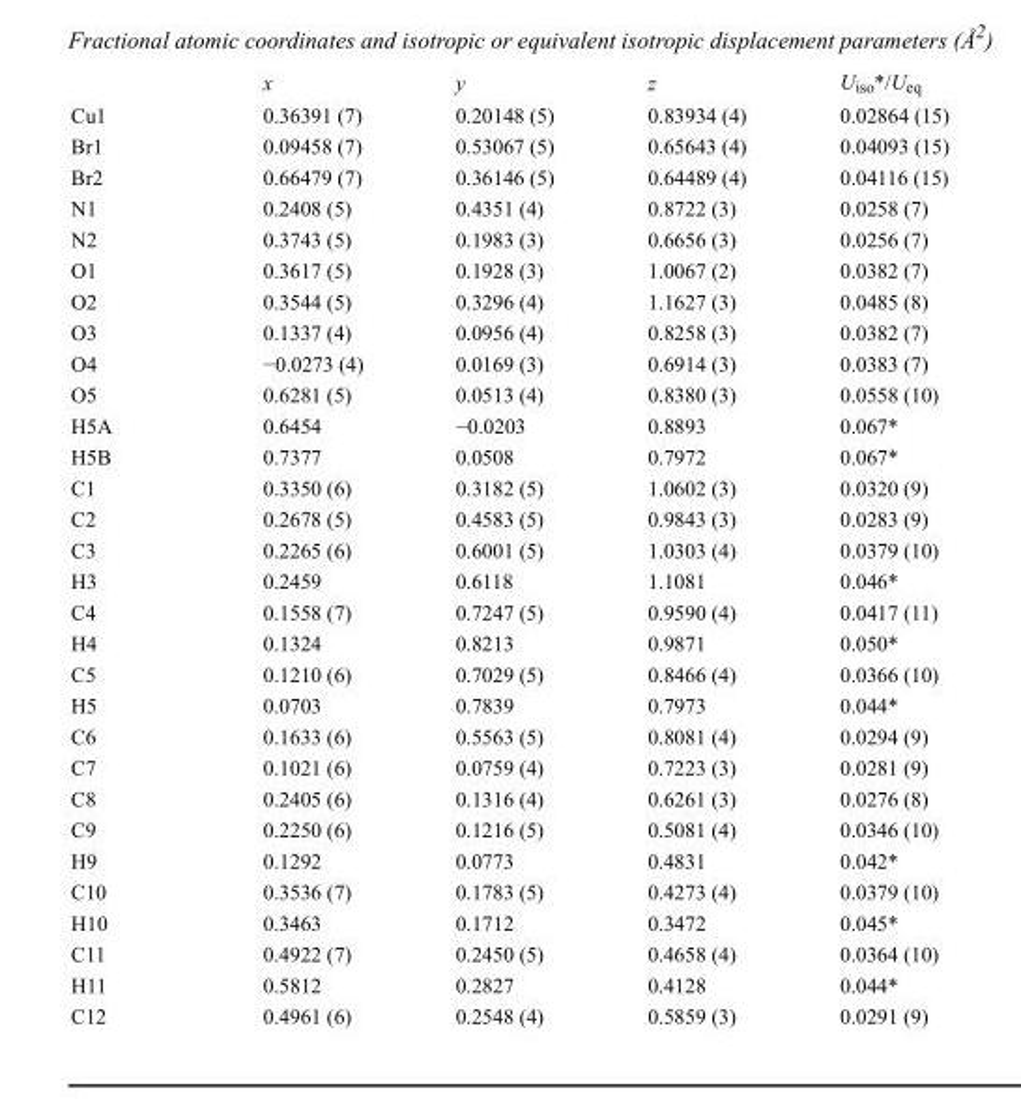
<table><thead><tr><td></td><td>x</td><td>y</td><td>z</td><td>U<sub>iso</sub>*/U<sub>eq</sub></td></tr></thead><tbody><tr><td>Cu1</td><td>0.36391 (7)</td><td>0.20148 (5)</td><td>0.83934 (4)</td><td>0.02864 (15)</td></tr><tr><td>Br1</td><td>0.09458 (7)</td><td>0.53067 (5)</td><td>0.65643 (4)</td><td>0.04093 (15)</td></tr><tr><td>Br2</td><td>0.66479 (7)</td><td>0.36146 (5)</td><td>0.64489 (4)</td><td>0.04116 (15)</td></tr><tr><td>N1</td><td>0.2408 (5)</td><td>0.4351 (4)</td><td>0.8722 (3)</td><td>0.0258 (7)</td></tr><tr><td>N2</td><td>0.3743 (5)</td><td>0.1983 (3)</td><td>0.6656 (3)</td><td>0.0256 (7)</td></tr><tr><td>O1</td><td>0.3617 (5)</td><td>0.1928 (3)</td><td>1.0067 (2)</td><td>0.0382 (7)</td></tr><tr><td>O2</td><td>0.3544 (5)</td><td>0.3296 (4)</td><td>1.1627 (3)</td><td>0.0485 (8)</td></tr><tr><td>O3</td><td>0.1337 (4)</td><td>0.0956 (4)</td><td>0.8258 (3)</td><td>0.0382 (7)</td></tr><tr><td>O4</td><td>−0.0273 (4)</td><td>0.0169 (3)</td><td>0.6914 (3)</td><td>0.0383 (7)</td></tr><tr><td>O5</td><td>0.6281 (5)</td><td>0.0513 (4)</td><td>0.8380 (3)</td><td>0.0558 (10)</td></tr><tr><td>H5A</td><td>0.6454</td><td>−0.0203</td><td>0.8893</td><td>0.067*</td></tr><tr><td>H5B</td><td>0.7377</td><td>0.0508</td><td>0.7972</td><td>0.067*</td></tr><tr><td>C1</td><td>0.3350 (6)</td><td>0.3182 (5)</td><td>1.0602 (3)</td><td>0.0320 (9)</td></tr><tr><td>C2</td><td>0.2678 (5)</td><td>0.4583 (5)</td><td>0.9843 (3)</td><td>0.0283 (9)</td></tr><tr><td>C3</td><td>0.2265 (6)</td><td>0.6001 (5)</td><td>1.0303 (4)</td><td>0.0379 (10)</td></tr><tr><td>H3</td><td>0.2459</td><td>0.6118</td><td>1.1081</td><td>0.046*</td></tr><tr><td>C4</td><td>0.1558 (7)</td><td>0.7247 (5)</td><td>0.9590 (4)</td><td>0.0417 (11)</td></tr><tr><td>H4</td><td>0.1324</td><td>0.8213</td><td>0.9871</td><td>0.050*</td></tr><tr><td>C5</td><td>0.1210 (6)</td><td>0.7029 (5)</td><td>0.8466 (4)</td><td>0.0366 (10)</td></tr><tr><td>H5</td><td>0.0703</td><td>0.7839</td><td>0.7973</td><td>0.044*</td></tr><tr><td>C6</td><td>0.1633 (6)</td><td>0.5563 (5)</td><td>0.8081 (4)</td><td>0.0294 (9)</td></tr><tr><td>C7</td><td>0.1021 (6)</td><td>0.0759 (4)</td><td>0.7223 (3)</td><td>0.0281 (9)</td></tr><tr><td>C8</td><td>0.2405 (6)</td><td>0.1316 (4)</td><td>0.6261 (3)</td><td>0.0276 (8)</td></tr><tr><td>C9</td><td>0.2250 (6)</td><td>0.1216 (5)</td><td>0.5081 (4)</td><td>0.0346 (10)</td></tr><tr><td>H9</td><td>0.1292</td><td>0.0773</td><td>0.4831</td><td>0.042*</td></tr><tr><td>C10</td><td>0.3536 (7)</td><td>0.1783 (5)</td><td>0.4273 (4)</td><td>0.0379 (10)</td></tr><tr><td>H10</td><td>0.3463</td><td>0.1712</td><td>0.3472</td><td>0.045*</td></tr><tr><td>C11</td><td>0.4922 (7)</td><td>0.2450 (5)</td><td>0.4658 (4)</td><td>0.0364 (10)</td></tr><tr><td>H11</td><td>0.5812</td><td>0.2827</td><td>0.4128</td><td>0.044*</td></tr><tr><td>C12</td><td>0.4961 (6)</td><td>0.2548 (4)</td><td>0.5859 (3)</td><td>0.0291 (9)</td></tr></tbody></table>